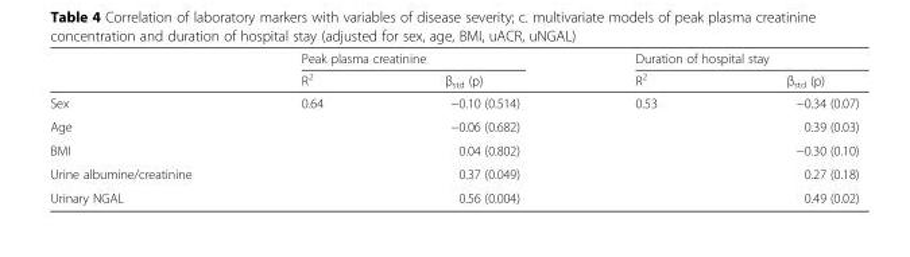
<table><thead><tr><td rowspan="2"></td><td colspan="2">Peak plasma creatinine</td><td colspan="2">Duration of hospital stay</td></tr><tr><td>R<sup>2</sup></td><td>β<sub>std</sub> (p)</td><td>R<sup>2</sup></td><td>β<sub>std</sub> (p)</td></tr></thead><tbody><tr><td>Sex</td><td rowspan="5">0.64</td><td>−0.10 (0.514)</td><td rowspan="5">0.53</td><td>−0.34 (0.07)</td></tr><tr><td>Age</td><td>−0.06 (0.682)</td><td>0.39 (0.03)</td></tr><tr><td>BMI</td><td>0.04 (0.802)</td><td>−0.30 (0.10)</td></tr><tr><td>Urine albumine/creatinine</td><td>0.37 (0.049)</td><td>0.27 (0.18)</td></tr><tr><td>Urinary NGAL</td><td>0.56 (0.004)</td><td>0.49 (0.02)</td></tr></tbody></table>